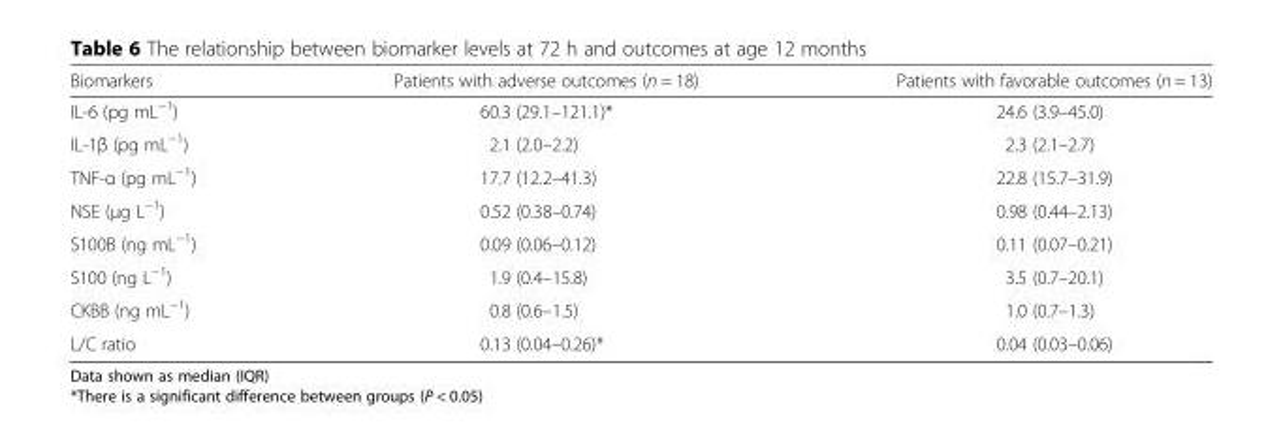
<table><thead><tr><td>Biomarkers</td><td>Patients with adverse outcomes (n = 18)</td><td>Patients with favorable outcomes (n = 13)</td></tr></thead><tbody><tr><td>IL-6 (pg mL<sup>−1</sup>)</td><td>60.3 (29.1–121.1)*</td><td>24.6 (3.9–45.0)</td></tr><tr><td>IL-1β (pg mL<sup>−1</sup>)</td><td>2.1 (2.0–2.2)</td><td>2.3 (2.1–2.7)</td></tr><tr><td>TNF-α (pg mL<sup>−1</sup>)</td><td>17.7 (12.2–41.3)</td><td>22.8 (15.7–31.9)</td></tr><tr><td>NSE (μg L<sup>−1</sup>)</td><td>0.52 (0.38–0.74)</td><td>0.98 (0.44–2.13)</td></tr><tr><td>S100B (ng mL<sup>−1</sup>)</td><td>0.09 (0.06–0.12)</td><td>0.11 (0.07–0.21)</td></tr><tr><td>S100 (ng L<sup>−1</sup>)</td><td>1.9 (0.4–15.8)</td><td>3.5 (0.7–20.1)</td></tr><tr><td>CKBB (ng mL<sup>−1</sup>)</td><td>0.8 (0.6–1.5)</td><td>1.0 (0.7–1.3)</td></tr><tr><td>L/C ratio</td><td>0.13 (0.04–0.26)*</td><td>0.04 (0.03–0.06)</td></tr></tbody></table>